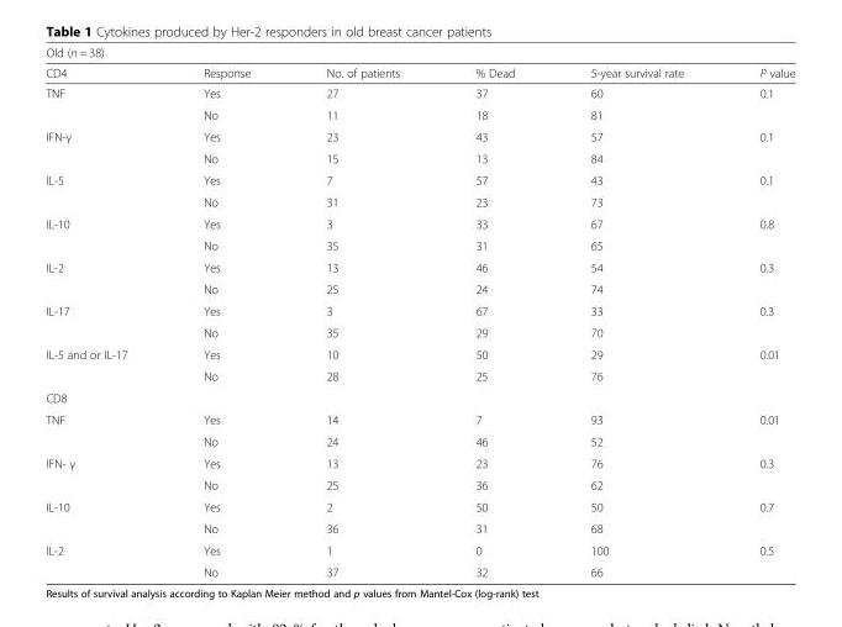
<table><thead><tr><td colspan="6">Old (n = 38)</td></tr><tr><td>CD4</td><td>Response</td><td>No. of patients</td><td>% Dead</td><td>5-year survival rate</td><td>P value</td></tr></thead><tbody><tr><td rowspan="2">TNF</td><td>Yes</td><td>27</td><td>37</td><td>60</td><td>0.1</td></tr><tr><td>No</td><td>11</td><td>18</td><td>81</td><td></td></tr><tr><td rowspan="2">IFN-γ</td><td>Yes</td><td>23</td><td>43</td><td>57</td><td>0.1</td></tr><tr><td>No</td><td>15</td><td>13</td><td>84</td><td></td></tr><tr><td rowspan="2">IL-5</td><td>Yes</td><td>7</td><td>57</td><td>43</td><td>0.1</td></tr><tr><td>No</td><td>31</td><td>23</td><td>73</td><td></td></tr><tr><td rowspan="2">IL-10</td><td>Yes</td><td>3</td><td>33</td><td>67</td><td>0.8</td></tr><tr><td>No</td><td>35</td><td>31</td><td>65</td><td></td></tr><tr><td rowspan="2">IL-2</td><td>Yes</td><td>13</td><td>46</td><td>54</td><td>0.3</td></tr><tr><td>No</td><td>25</td><td>24</td><td>74</td><td></td></tr><tr><td rowspan="2">IL-17</td><td>Yes</td><td>3</td><td>67</td><td>33</td><td>0.3</td></tr><tr><td>No</td><td>35</td><td>29</td><td>70</td><td></td></tr><tr><td rowspan="2">IL-5 and or IL-17</td><td>Yes</td><td>10</td><td>50</td><td>29</td><td>0.01</td></tr><tr><td>No</td><td>28</td><td>25</td><td>76</td><td></td></tr><tr><td colspan="6">CD8</td></tr><tr><td rowspan="2">TNF</td><td>Yes</td><td>14</td><td>7</td><td>93</td><td>0.01</td></tr><tr><td>No</td><td>24</td><td>46</td><td>52</td><td></td></tr><tr><td rowspan="2">IFN- γ</td><td>Yes</td><td>13</td><td>23</td><td>76</td><td>0.3</td></tr><tr><td>No</td><td>25</td><td>36</td><td>62</td><td></td></tr><tr><td rowspan="2">IL-10</td><td>Yes</td><td>2</td><td>50</td><td>50</td><td>0.7</td></tr><tr><td>No</td><td>36</td><td>31</td><td>68</td><td></td></tr><tr><td rowspan="2">IL-2</td><td>Yes</td><td>1</td><td>0</td><td>100</td><td>0.5</td></tr><tr><td>No</td><td>37</td><td>32</td><td>66</td><td></td></tr></tbody></table>